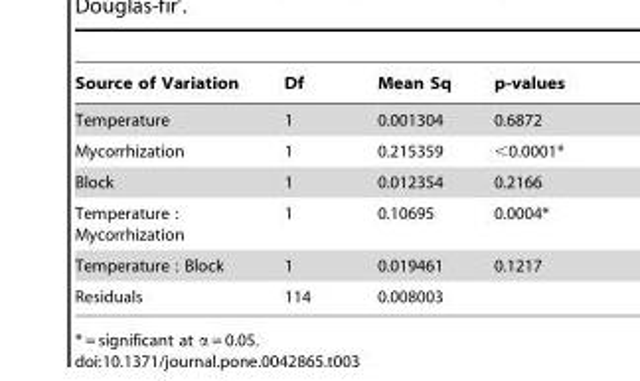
<table><thead><tr><td>Source of Variation</td><td>Df</td><td>Mean Sq</td><td>p-values</td></tr></thead><tbody><tr><td>Temperature</td><td>1</td><td>0.001304</td><td>0.6872</td></tr><tr><td>Mycorrhization</td><td>1</td><td>0.215359</td><td>&lt;0.0001*</td></tr><tr><td>Block</td><td>1</td><td>0.012354</td><td>0.2166</td></tr><tr><td>Temperature : Mycorrhization</td><td>1</td><td>0.10695</td><td>0.0004*</td></tr><tr><td>Temperature : Block</td><td>1</td><td>0.019461</td><td>0.1217</td></tr><tr><td>Residuals</td><td>114</td><td>0.008003</td><td></td></tr></tbody></table>